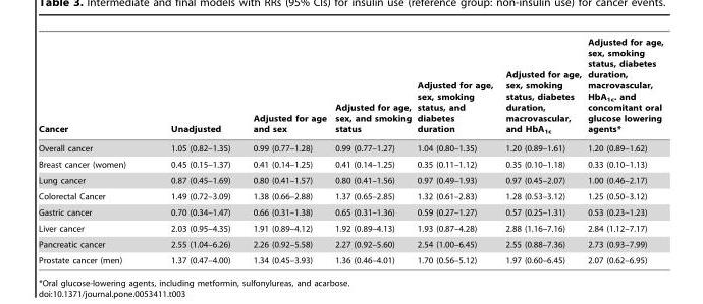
<table><thead><tr><td>Cancer</td><td>Unadjusted</td><td>Adjusted for age and sex</td><td>Adjusted for age, sex, and smoking status</td><td>Adjusted for age, sex, smoking status, and diabetes duration</td><td>Adjusted for age, sex, smoking status, diabetes duration, macrovascular, and HbA<sub>1c</sub></td><td>Adjusted for age, sex, smoking status, diabetes duration, macrovascular, HbA<sub>1c</sub>. and concomitant oral glucose lowering agents*</td></tr></thead><tbody><tr><td>Overall cancer</td><td>1.05 (0.82–1.35)</td><td>0.99 (0.77–1.28)</td><td>0.99 (0.77–1.27)</td><td>1.04 (0.80–1.35)</td><td>1.20 (0.89–1.61)</td><td>1.20 (0.89–1.62)</td></tr><tr><td>Breast cancer (women)</td><td>0.45 (0.15–1.37)</td><td>0.41 (0.14–1.25)</td><td>0.41 (0.14–1.25)</td><td>0.35 (0.11–1.12)</td><td>0.35 (0.10–1.18)</td><td>0.33 (0.10–1.13)</td></tr><tr><td>Lung cancer</td><td>0.87 (0.45–1.69)</td><td>0.80 (0.41–1.57)</td><td>0.80 (0.41–1.56)</td><td>0.97 (0.49–1.93)</td><td>0.97 (0.45–2.07)</td><td>1.00 (0.46–2.17)</td></tr><tr><td>Colorectal Cancer</td><td>1.49 (0.72–3.09)</td><td>1.38 (0.66–2.88)</td><td>1.37 (0.65–2.85)</td><td>1.32 (0.61–2.83)</td><td>1.28 (0.53–3.12)</td><td>1.25 (0.50–3.12)</td></tr><tr><td>Gastric cancer</td><td>0.70 (0.34–1.47)</td><td>0.66 (0.31–1.38)</td><td>0.65 (0.31–1.36)</td><td>0.59 (0.27–1.27)</td><td>0.57 (0.25–1.31)</td><td>0.53 (0.23–1.23)</td></tr><tr><td>Liver cancer</td><td>2.03 (0.95–4.35)</td><td>1.91 (0.89–4.12)</td><td>1.92 (0.89–4.13)</td><td>1.93 (0.87–4.28)</td><td>2.88 (1.16–7.16)</td><td>2.84 (1.12–7.17)</td></tr><tr><td>Pancreatic cancer</td><td>2.55 (1.04–6.26)</td><td>2.26 (0.92–5.58)</td><td>2.27 (0.92–5.60)</td><td>2.54 (1.00–6.45)</td><td>2.55 (0.88–7.36)</td><td>2.73 (0.93–7.99)</td></tr><tr><td>Prostate cancer (men)</td><td>1.37 (0.47–4.00)</td><td>1.34 (0.45–3.93)</td><td>1.36 (0.46–4.01)</td><td>1.70 (0.56–5.12)</td><td>1.97 (0.60–6.45)</td><td>2.07 (0.62–6.95)</td></tr></tbody></table>